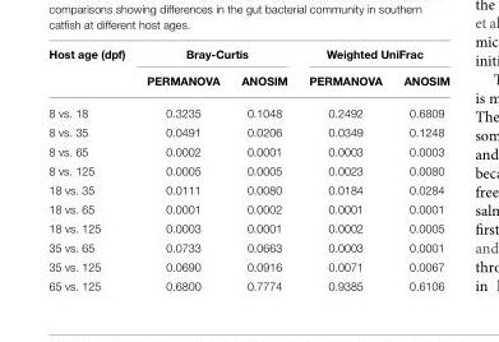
<table><thead><tr><td rowspan="2">Host age (dpf)</td><td colspan="2">Bray-Curtis</td><td colspan="2">Weighted UniFrac</td></tr><tr><td>PERMANOVA</td><td>ANOSIM</td><td>PERMANOVA</td><td>ANOSIM</td></tr></thead><tbody><tr><td>8 vs. 18</td><td>0.3235</td><td>0.1048</td><td>0.2492</td><td>0.6809</td></tr><tr><td>8 vs. 35</td><td>0.0491</td><td>0.0206</td><td>0.0349</td><td>0.1248</td></tr><tr><td>8 vs. 65</td><td>0.0002</td><td>0.0001</td><td>0.0003</td><td>0.0003</td></tr><tr><td>8 vs. 125</td><td>0.0005</td><td>0.0005</td><td>0.0023</td><td>0.0080</td></tr><tr><td>18 vs. 35</td><td>0.0111</td><td>0.0080</td><td>0.0184</td><td>0.0284</td></tr><tr><td>18 vs. 65</td><td>0.0001</td><td>0.0002</td><td>0.0001</td><td>0.0001</td></tr><tr><td>18 vs. 125</td><td>0.0003</td><td>0.0001</td><td>0.0002</td><td>0.0005</td></tr><tr><td>35 vs. 65</td><td>0.0733</td><td>0.0663</td><td>0.0003</td><td>0.0001</td></tr><tr><td>35 vs. 125</td><td>0.0690</td><td>0.0916</td><td>0.0071</td><td>0.0067</td></tr><tr><td>65 vs. 125</td><td>0.6800</td><td>0.7774</td><td>0.9385</td><td>0.6106</td></tr></tbody></table>